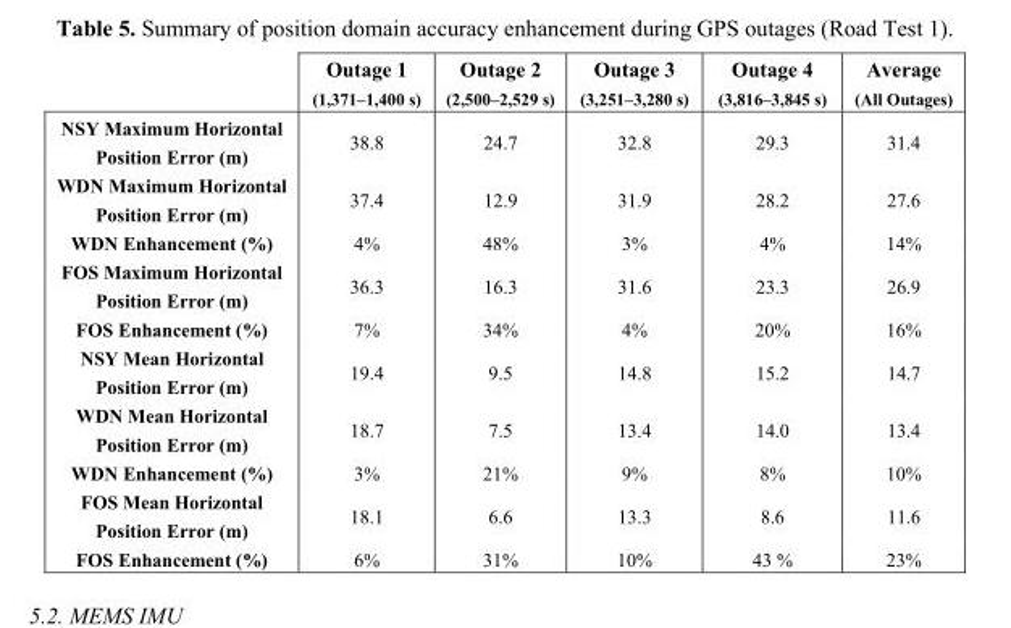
<table><thead><tr><td></td><td>Outage 1 (1,371–1,400 s)</td><td>Outage 2 (2,500–2,529 s)</td><td>Outage 3 (3,251–3,280 s)</td><td>Outage 4 (3,816–3,845 s)</td><td>Average (All Outages)</td></tr></thead><tbody><tr><td>NSY Maximum Horizontal Position Error (m)</td><td>38.8</td><td>24.7</td><td>32.8</td><td>29.3</td><td>31.4</td></tr><tr><td>WDN Maximum Horizontal Position Error (m)</td><td>37.4</td><td>12.9</td><td>31.9</td><td>28.2</td><td>27.6</td></tr><tr><td>WDN Enhancement (%)</td><td>4%</td><td>48%</td><td>3%</td><td>4%</td><td>14%</td></tr><tr><td>FOS Maximum Horizontal Position Error (m)</td><td>36.3</td><td>16.3</td><td>31.6</td><td>23.3</td><td>26.9</td></tr><tr><td>FOS Enhancement (%)</td><td>7%</td><td>34%</td><td>4%</td><td>20%</td><td>16%</td></tr><tr><td>NSY Mean Horizontal Position Error (m)</td><td>19.4</td><td>9.5</td><td>14.8</td><td>15.2</td><td>14.7</td></tr><tr><td>WDN Mean Horizontal Position Error (m)</td><td>18.7</td><td>7.5</td><td>13.4</td><td>14.0</td><td>13.4</td></tr><tr><td>WDN Enhancement (%)</td><td>3%</td><td>21%</td><td>9%</td><td>8%</td><td>10%</td></tr><tr><td>FOS Mean Horizontal Position Error (m)</td><td>18.1</td><td>6.6</td><td>13.3</td><td>8.6</td><td>11.6</td></tr><tr><td>FOS Enhancement (%)</td><td>6%</td><td>31%</td><td>10%</td><td>43 %</td><td>23%</td></tr></tbody></table>